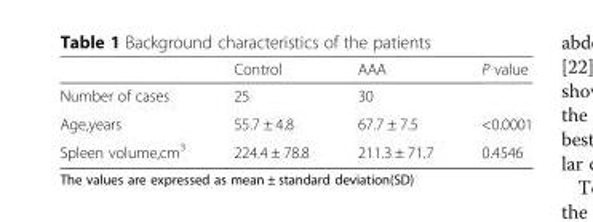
<table><thead><tr><td></td><td>Control</td><td>AAA</td><td>P value</td></tr></thead><tbody><tr><td>Number of cases</td><td>25</td><td>30</td><td></td></tr><tr><td>Age,years</td><td>55.7 ± 4.8</td><td>67.7 ± 7.5</td><td>&lt;0.0001</td></tr><tr><td>Spleen volume,cm<sup>3</sup></td><td>224.4 ± 78.8</td><td>211.3 ± 71.7</td><td>0.4546</td></tr></tbody></table>